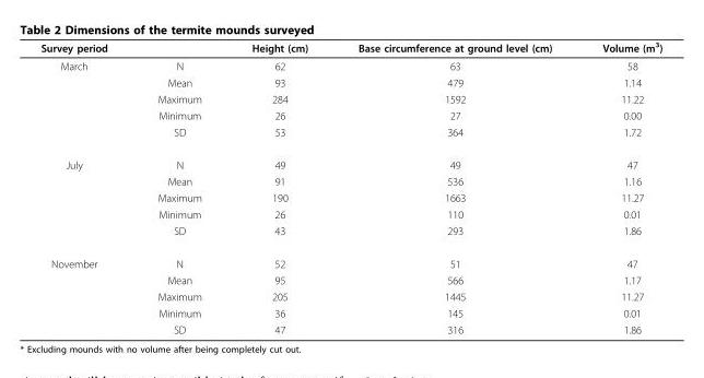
<table><thead><tr><td>Survey period</td><td></td><td>Height (cm)</td><td>Base circumference at ground level (cm)</td><td>Volume (m<sup>3</sup>)</td></tr></thead><tbody><tr><td rowspan="5">March</td><td>N</td><td>62</td><td>63</td><td>58</td></tr><tr><td>Mean</td><td>93</td><td>479</td><td>1.14</td></tr><tr><td>Maximum</td><td>284</td><td>1592</td><td>11.22</td></tr><tr><td>Minimum</td><td>26</td><td>27</td><td>0.00</td></tr><tr><td>SD</td><td>53</td><td>364</td><td>1.72</td></tr><tr><td rowspan="5">July</td><td>N</td><td>49</td><td>49</td><td>47</td></tr><tr><td>Mean</td><td>91</td><td>536</td><td>1.16</td></tr><tr><td>Maximum</td><td>190</td><td>1663</td><td>11.27</td></tr><tr><td>Minimum</td><td>26</td><td>110</td><td>0.01</td></tr><tr><td>SD</td><td>43</td><td>293</td><td>1.86</td></tr><tr><td rowspan="5">November</td><td>N</td><td>52</td><td>51</td><td>47</td></tr><tr><td>Mean</td><td>95</td><td>566</td><td>1.17</td></tr><tr><td>Maximum</td><td>205</td><td>1445</td><td>11.27</td></tr><tr><td>Minimum</td><td>36</td><td>145</td><td>0.01</td></tr><tr><td>SD</td><td>47</td><td>316</td><td>1.86</td></tr></tbody></table>